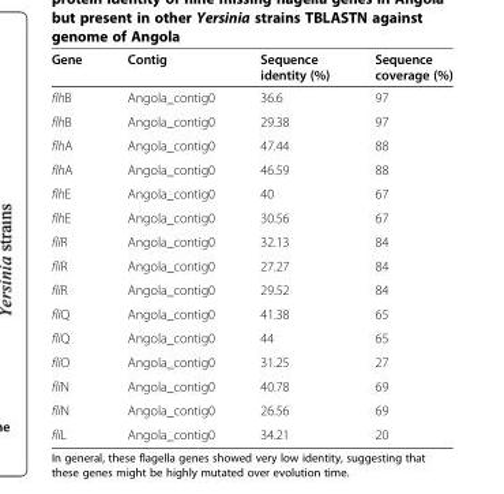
<table><thead><tr><td>Gene</td><td>Contig</td><td>Sequence identity (%)</td><td>Sequence coverage (%)</td></tr></thead><tbody><tr><td>flhB</td><td>Angola_contig0</td><td>36.6</td><td>97</td></tr><tr><td>flhB</td><td>Angola_contig0</td><td>29.38</td><td>97</td></tr><tr><td>flhA</td><td>Angola_contig0</td><td>47.44</td><td>88</td></tr><tr><td>flhA</td><td>Angola_contig0</td><td>46.59</td><td>88</td></tr><tr><td>flhE</td><td>Angola_contig0</td><td>40</td><td>67</td></tr><tr><td>flhE</td><td>Angola_contig0</td><td>30.56</td><td>67</td></tr><tr><td>fliR</td><td>Angola_contig0</td><td>32.13</td><td>84</td></tr><tr><td>fliR</td><td>Angola_contig0</td><td>27.27</td><td>84</td></tr><tr><td>fliR</td><td>Angola_contig0</td><td>29.52</td><td>84</td></tr><tr><td>fliQ</td><td>Angola_contig0</td><td>41.38</td><td>65</td></tr><tr><td>fliQ</td><td>Angola_contig0</td><td>44</td><td>65</td></tr><tr><td>fliO</td><td>Angola_contig0</td><td>31.25</td><td>27</td></tr><tr><td>fliN</td><td>Angola_contig0</td><td>40.78</td><td>69</td></tr><tr><td>fliN</td><td>Angola_contig0</td><td>26.56</td><td>69</td></tr><tr><td>fliL</td><td>Angola_contig0</td><td>34.21</td><td>20</td></tr></tbody></table>